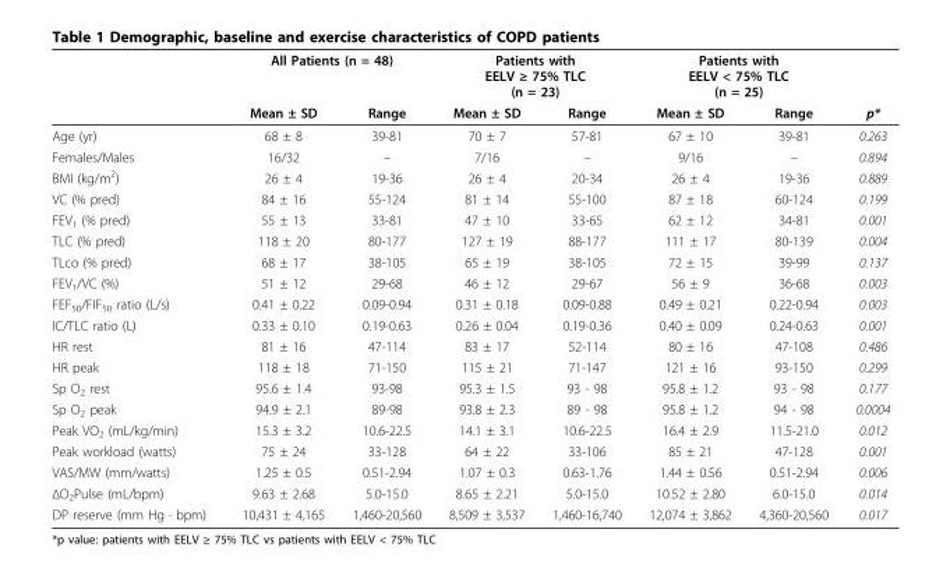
<table><thead><tr><td rowspan="2"></td><td colspan="2">All Patients (n = 48)</td><td colspan="2">Patients with EELV ≥ 75% TLC (n = 23)</td><td colspan="2">Patients with EELV &lt; 75% TLC (n = 25)</td><td rowspan="2">p*</td></tr><tr><td>Mean ± SD</td><td>Range</td><td>Mean ± SD</td><td>Range</td><td>Mean ± SD</td><td>Range</td></tr></thead><tbody><tr><td>Age (yr)</td><td>68 ± 8</td><td>39-81</td><td>70 ± 7</td><td>57-81</td><td>67 ± 10</td><td>39-81</td><td>0.263</td></tr><tr><td>Females/Males</td><td>16/32</td><td>–</td><td>7/16</td><td>–</td><td>9/16</td><td>–</td><td>0.894</td></tr><tr><td>BMI (kg/m<sup>2</sup>)</td><td>26 ± 4</td><td>19-36</td><td>26 ± 4</td><td>20-34</td><td>26 ± 4</td><td>19-36</td><td>0.889</td></tr><tr><td>VC (% pred)</td><td>84 ± 16</td><td>55-124</td><td>81 ± 14</td><td>55-100</td><td>87 ± 18</td><td>60-124</td><td>0.199</td></tr><tr><td>FEV<sub>1</sub> (% pred)</td><td>55 ± 13</td><td>33-81</td><td>47 ± 10</td><td>33-65</td><td>62 ± 12</td><td>34-81</td><td>0.001</td></tr><tr><td>TLC (% pred)</td><td>118 ± 20</td><td>80-177</td><td>127 ± 19</td><td>88-177</td><td>111 ± 17</td><td>80-139</td><td>0.004</td></tr><tr><td>TLco (% pred)</td><td>68 ± 17</td><td>38-105</td><td>65 ± 19</td><td>38-105</td><td>72 ± 15</td><td>39-99</td><td>0.137</td></tr><tr><td>FEV<sub>1</sub>/VC (%)</td><td>51 ± 12</td><td>29-68</td><td>46 ± 12</td><td>29-67</td><td>56 ± 9</td><td>36-68</td><td>0.003</td></tr><tr><td>FEF<sub>50</sub>/FIF<sub>50</sub> ratio (L/s)</td><td>0.41 ± 0.22</td><td>0.09-0.94</td><td>0.31 ± 0.18</td><td>0.09-0.88</td><td>0.49 ± 0.21</td><td>0.22-0.94</td><td>0.003</td></tr><tr><td>IC/TLC ratio (L)</td><td>0.33 ± 0.10</td><td>0.19-0.63</td><td>0.26 ± 0.04</td><td>0.19-0.36</td><td>0.40 ± 0.09</td><td>0.24-0.63</td><td>0.001</td></tr><tr><td>HR rest</td><td>81 ± 16</td><td>47-114</td><td>83 ± 17</td><td>52-114</td><td>80 ± 16</td><td>47-108</td><td>0.486</td></tr><tr><td>HR peak</td><td>118 ± 18</td><td>71-150</td><td>115 ± 21</td><td>71-147</td><td>121 ± 16</td><td>93-150</td><td>0.299</td></tr><tr><td>Sp O<sub>2</sub> rest</td><td>95.6 ± 1.4</td><td>93-98</td><td>95.3 ± 1.5</td><td>93 - 98</td><td>95.8 ± 1.2</td><td>93 - 98</td><td>0.177</td></tr><tr><td>Sp O<sub>2</sub> peak</td><td>94.9 ± 2.1</td><td>89-98</td><td>93.8 ± 2.3</td><td>89 - 98</td><td>95.8 ± 1.2</td><td>94 - 98</td><td>0.0004</td></tr><tr><td>Peak VO<sub>2</sub> (mL/kg/min)</td><td>15.3 ± 3.2</td><td>10.6-22.5</td><td>14.1 ± 3.1</td><td>10.6-22.5</td><td>16.4 ± 2.9</td><td>11.5-21.0</td><td>0.012</td></tr><tr><td>Peak workload (watts)</td><td>75 ± 24</td><td>33-128</td><td>64 ± 22</td><td>33-106</td><td>85 ± 21</td><td>47-128</td><td>0.001</td></tr><tr><td>VAS/MW (mm/watts)</td><td>1.25 ± 0.5</td><td>0.51-2.94</td><td>1.07 ± 0.3</td><td>0.63-1.76</td><td>1.44 ± 0.56</td><td>0.51-2.94</td><td>0.006</td></tr><tr><td>ΔO<sub>2</sub>Pulse (mL/bpm)</td><td>9.63 ± 2.68</td><td>5.0-15.0</td><td>8.65 ± 2.21</td><td>5.0-15.0</td><td>10.52 ± 2.80</td><td>6.0-15.0</td><td>0.014</td></tr><tr><td>DP reserve (mm Hg · bpm)</td><td>10,431 ± 4,165</td><td>1,460-20,560</td><td>8,509 ± 3,537</td><td>1,460-16,740</td><td>12,074 ± 3,862</td><td>4,360-20,560</td><td>0.017</td></tr></tbody></table>